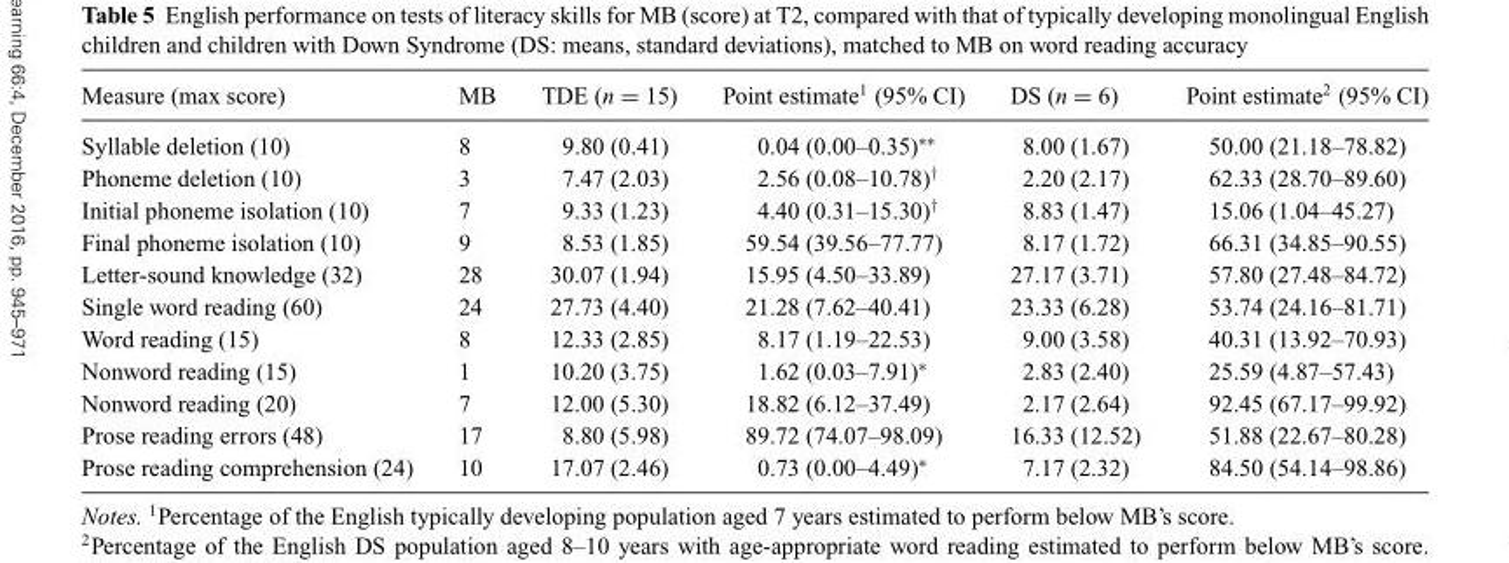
<table><thead><tr><td>Measure (max score)</td><td>MB</td><td>TDE (n = 15)</td><td>Point estimate<sup>1</sup> (95% CI)</td><td>DS (n = 6)</td><td>Point estimate<sup>2</sup> (95% CI)</td></tr></thead><tbody><tr><td>Syllable deletion (10)</td><td>8</td><td>9.80 (0.41)</td><td>0.04 (0.00–0.35)∗∗</td><td>8.00 (1.67)</td><td>50.00 (21.18–78.82)</td></tr><tr><td>Phoneme deletion (10)</td><td>3</td><td>7.47 (2.03)</td><td>2.56 (0.08–10.78)†</td><td>2.20 (2.17)</td><td>62.33 (28.70–89.60)</td></tr><tr><td>Initial phoneme isolation (10)</td><td>7</td><td>9.33 (1.23)</td><td>4.40 (0.31–15.30)†</td><td>8.83 (1.47)</td><td>15.06 (1.04–45.27)</td></tr><tr><td>Final phoneme isolation (10)</td><td>9</td><td>8.53 (1.85)</td><td>59.54 (39.56–77.77)</td><td>8.17 (1.72)</td><td>66.31 (34.85–90.55)</td></tr><tr><td>Letter-sound knowledge (32)</td><td>28</td><td>30.07 (1.94)</td><td>15.95 (4.50–33.89)</td><td>27.17 (3.71)</td><td>57.80 (27.48–84.72)</td></tr><tr><td>Single word reading (60)</td><td>24</td><td>27.73 (4.40)</td><td>21.28 (7.62–40.41)</td><td>23.33 (6.28)</td><td>53.74 (24.16–81.71)</td></tr><tr><td>Word reading (15)</td><td>8</td><td>12.33 (2.85)</td><td>8.17 (1.19–22.53)</td><td>9.00 (3.58)</td><td>40.31 (13.92–70.93)</td></tr><tr><td>Nonword reading (15)</td><td>1</td><td>10.20 (3.75)</td><td>1.62 (0.03–7.91)∗</td><td>2.83 (2.40)</td><td>25.59 (4.87–57.43)</td></tr><tr><td>Nonword reading (20)</td><td>7</td><td>12.00 (5.30)</td><td>18.82 (6.12–37.49)</td><td>2.17 (2.64)</td><td>92.45 (67.17–99.92)</td></tr><tr><td>Prose reading errors (48)</td><td>17</td><td>8.80 (5.98)</td><td>89.72 (74.07–98.09)</td><td>16.33 (12.52)</td><td>51.88 (22.67–80.28)</td></tr><tr><td>Prose reading comprehension (24)</td><td>10</td><td>17.07 (2.46)</td><td>0.73 (0.00–4.49)∗</td><td>7.17 (2.32)</td><td>84.50 (54.14–98.86)</td></tr></tbody></table>